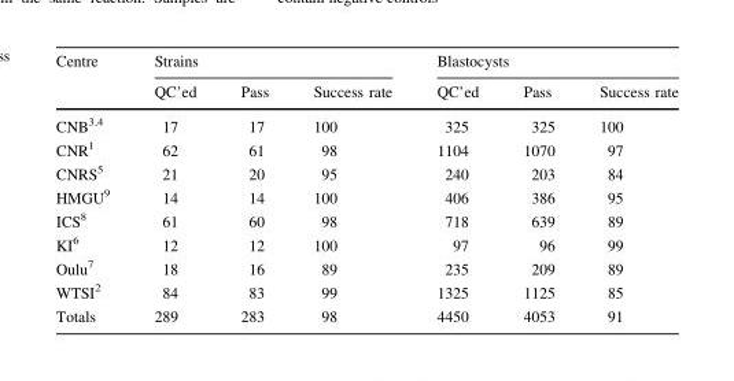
<table><thead><tr><td rowspan="2">Centre</td><td colspan="3">Strains</td><td colspan="3">Blastocysts</td></tr><tr><td>QC’ed</td><td>Pass</td><td>Success rate</td><td>QC’ed</td><td>Pass</td><td>Success rate</td></tr></thead><tbody><tr><td>CNB<sup>3,4</sup></td><td>17</td><td>17</td><td>100</td><td>325</td><td>325</td><td>100</td></tr><tr><td>CNR<sup>1</sup></td><td>62</td><td>61</td><td>98</td><td>1104</td><td>1070</td><td>97</td></tr><tr><td>CNRS<sup>5</sup></td><td>21</td><td>20</td><td>95</td><td>240</td><td>203</td><td>84</td></tr><tr><td>HMGU<sup>9</sup></td><td>14</td><td>14</td><td>100</td><td>406</td><td>386</td><td>95</td></tr><tr><td>ICS<sup>8</sup></td><td>61</td><td>60</td><td>98</td><td>718</td><td>639</td><td>89</td></tr><tr><td>KI<sup>6</sup></td><td>12</td><td>12</td><td>100</td><td>97</td><td>96</td><td>99</td></tr><tr><td>Oulu<sup>7</sup></td><td>18</td><td>16</td><td>89</td><td>235</td><td>209</td><td>89</td></tr><tr><td>WTSI<sup>2</sup></td><td>84</td><td>83</td><td>99</td><td>1325</td><td>1125</td><td>85</td></tr><tr><td>Totals</td><td>289</td><td>283</td><td>98</td><td>4450</td><td>4053</td><td>91</td></tr></tbody></table>